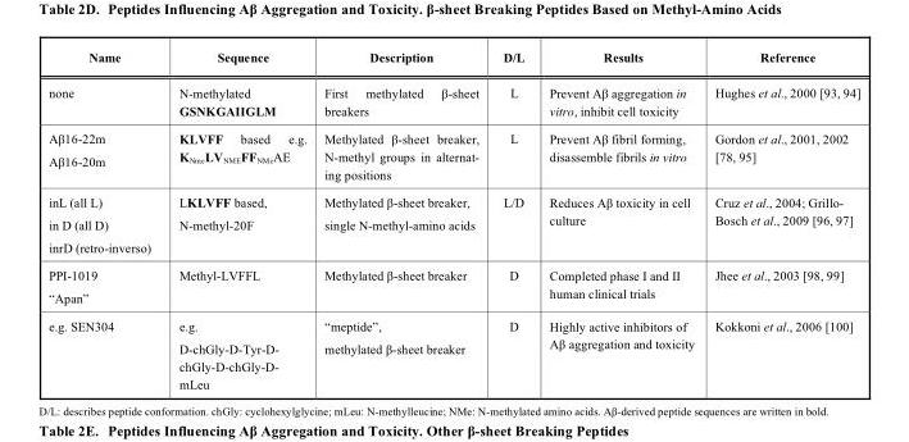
<table><thead><tr><td>Name</td><td>Sequence</td><td>Description</td><td>D/L</td><td>Results</td><td>Reference</td></tr></thead><tbody><tr><td>none</td><td>N-methylated GSNKGAIIGLM</td><td>First methylated β-sheet breakers</td><td>L</td><td>Prevent Aβ aggregation in vitro, inhibit cell toxicity</td><td>Hughes et al., 2000 [93, 94]</td></tr><tr><td>Aβ16-22m Aβ16-20m</td><td>KLVFF based e.g. K<sub>Nme</sub>LV<sub>NME</sub>FF<sub>NMe</sub>AE</td><td>Methylated �-sheet breaker, N-methyl groups in alternat- ing positions</td><td>L</td><td>Prevent Aβ fibril forming, disassemble fibrils in vitro</td><td>Gordon et al., 2001, 2002 [78, 95]</td></tr><tr><td>inL (all L) in D (all D) inrD (retro-inverso)</td><td>LKLVFF based, N-methyl-20F</td><td>Methylated β-sheet breaker, single N-methyl-amino acids</td><td>L/D</td><td>Reduces Aβ toxicity in cell culture</td><td>Cruz et al., 2004; Grillo- Bosch et al., 2009 [96, 97]</td></tr><tr><td>PPI-1019 “Apan”</td><td>Methyl-LVFFL</td><td>Methylated β-sheet breaker</td><td>D</td><td>Completed phase I and II human clinical trials</td><td>Jhee et al., 2003 [98, 99]</td></tr><tr><td>e.g. SEN304</td><td>e.g. D-chGly-D-Tyr-D- chGly-D-chGly-D- mLeu</td><td>“meptide”, methylated β-sheet breaker</td><td>D</td><td>Highly active inhibitors of Aβ aggregation and toxicity</td><td>Kokkoni et al., 2006 [100]</td></tr></tbody></table>